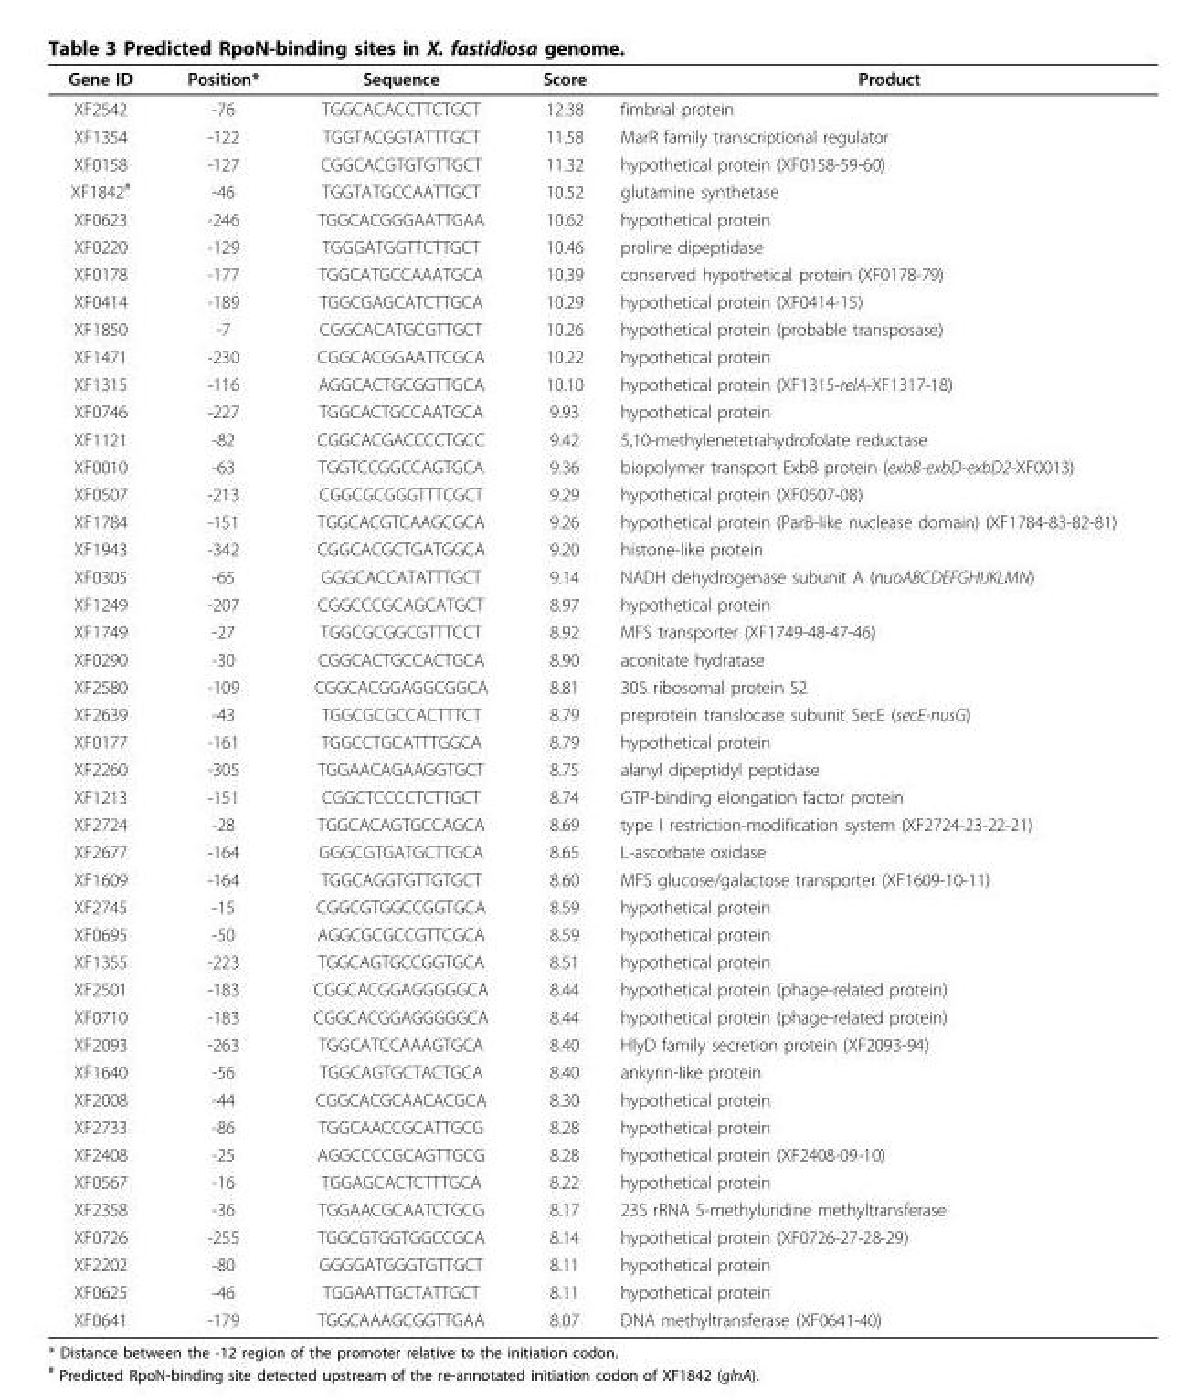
<table><thead><tr><td>Gene ID</td><td>Position*</td><td>Sequence</td><td>Score</td><td>Product</td></tr></thead><tbody><tr><td>XF2542</td><td>-76</td><td>TGGCACACCTTCTGCT</td><td>12.38</td><td>fimbrial protein</td></tr><tr><td>XF1354</td><td>-122</td><td>TGGTACGGTATTTGCT</td><td>11.58</td><td>MarR family transcriptional regulator</td></tr><tr><td>XF0158</td><td>-127</td><td>CGGCACGTGTGTTGCT</td><td>11.32</td><td>hypothetical protein (XF0158-59-60)</td></tr><tr><td>XF1842<sup>#</sup></td><td>-46</td><td>TGGTATGCCAATTGCT</td><td>10.52</td><td>glutamine synthetase</td></tr><tr><td>XF0623</td><td>-246</td><td>TGGCACGGGAATTGAA</td><td>10.62</td><td>hypothetical protein</td></tr><tr><td>XF0220</td><td>-129</td><td>TGGGATGGTTCTTGCT</td><td>10.46</td><td>proline dipeptidase</td></tr><tr><td>XF0178</td><td>-177</td><td>TGGCATGCCAAATGCA</td><td>10.39</td><td>conserved hypothetical protein (XF0178-79)</td></tr><tr><td>XF0414</td><td>-189</td><td>TGGCGAGCATCTTGCA</td><td>10.29</td><td>hypothetical protein (XF0414-15)</td></tr><tr><td>XF1850</td><td>-7</td><td>CGGCACATGCGTTGCT</td><td>10.26</td><td>hypothetical protein (probable transposase)</td></tr><tr><td>XF1471</td><td>-230</td><td>CGGCACGGAATTCGCA</td><td>10.22</td><td>hypothetical protein</td></tr><tr><td>XF1315</td><td>-116</td><td>AGGCACTGCGGTTGCA</td><td>10.10</td><td>hypothetical protein (XF1315-relA-XF1317-18)</td></tr><tr><td>XF0746</td><td>-227</td><td>TGGCACTGCCAATGCA</td><td>9.93</td><td>hypothetical protein</td></tr><tr><td>XF1121</td><td>-82</td><td>CGGCACGACCCCTGCC</td><td>9.42</td><td>5,10-methylenetetrahydrofolate reductase</td></tr><tr><td>XF0010</td><td>-63</td><td>TGGTCCGGCCAGTGCA</td><td>9.36</td><td>biopolymer transport ExbB protein (exbB-exbD-exbD2-XF0013)</td></tr><tr><td>XF0507</td><td>-213</td><td>CGGCGCGGGTTTCGCT</td><td>9.29</td><td>hypothetical protein (XF0507-08)</td></tr><tr><td>XF1784</td><td>-151</td><td>TGGCACGTCAAGCGCA</td><td>9.26</td><td>hypothetical protein (ParB-like nuclease domain) (XF1784-83-82-81)</td></tr><tr><td>XF1943</td><td>-342</td><td>CGGCACGCTGATGGCA</td><td>9.20</td><td>histone-like protein</td></tr><tr><td>XF0305</td><td>-65</td><td>GGGCACCATATTTGCT</td><td>9.14</td><td>NADH dehydrogenase subunit A (nuoABCDEFGHIJKLMN)</td></tr><tr><td>XF1249</td><td>-207</td><td>CGGCCCGCAGCATGCT</td><td>8.97</td><td>hypothetical protein</td></tr><tr><td>XF1749</td><td>-27</td><td>TGGCGCGGCGTTTCCT</td><td>8.92</td><td>MFS transporter (XF1749-48-47-46)</td></tr><tr><td>XF0290</td><td>-30</td><td>CGGCACTGCCACTGCA</td><td>8.90</td><td>aconitate hydratase</td></tr><tr><td>XF2580</td><td>-109</td><td>CGGCACGGAGGCGGCA</td><td>8.81</td><td>30S ribosomal protein S2</td></tr><tr><td>XF2639</td><td>-43</td><td>TGGCGCGCCACTTTCT</td><td>8.79</td><td>preprotein translocase subunit SecE (secE-nusG)</td></tr><tr><td>XF0177</td><td>-161</td><td>TGGCCTGCATTTGGCA</td><td>8.79</td><td>hypothetical protein</td></tr><tr><td>XF2260</td><td>-305</td><td>TGGAACAGAAGGTGCT</td><td>8.75</td><td>alanyl dipeptidyl peptidase</td></tr><tr><td>XF1213</td><td>-151</td><td>CGGCTCCCCTCTTGCT</td><td>8.74</td><td>GTP-binding elongation factor protein</td></tr><tr><td>XF2724</td><td>-28</td><td>TGGCACAGTGCCAGCA</td><td>8.69</td><td>type I restriction-modification system (XF2724-23-22-21)</td></tr><tr><td>XF2677</td><td>-164</td><td>GGGCGTGATGCTTGCA</td><td>8.65</td><td>L-ascorbate oxidase</td></tr><tr><td>XF1609</td><td>-164</td><td>TGGCAGGTGTTGTGCT</td><td>8.60</td><td>MFS glucose/galactose transporter (XF1609-10-11)</td></tr><tr><td>XF2745</td><td>-15</td><td>CGGCGTGGCCGGTGCA</td><td>8.59</td><td>hypothetical protein</td></tr><tr><td>XF0695</td><td>-50</td><td>AGGCGCGCCGTTCGCA</td><td>8.59</td><td>hypothetical protein</td></tr><tr><td>XF1355</td><td>-223</td><td>TGGCAGTGCCGGTGCA</td><td>8.51</td><td>hypothetical protein</td></tr><tr><td>XF2501</td><td>-183</td><td>CGGCACGGAGGGGGCA</td><td>8.44</td><td>hypothetical protein (phage-related protein)</td></tr><tr><td>XF0710</td><td>-183</td><td>CGGCACGGAGGGGGCA</td><td>8.44</td><td>hypothetical protein (phage-related protein)</td></tr><tr><td>XF2093</td><td>-263</td><td>TGGCATCCAAAGTGCA</td><td>8.40</td><td>HlyD family secretion protein (XF2093-94)</td></tr><tr><td>XF1640</td><td>-56</td><td>TGGCAGTGCTACTGCA</td><td>8.40</td><td>ankyrin-like protein</td></tr><tr><td>XF2008</td><td>-44</td><td>CGGCACGCAACACGCA</td><td>8.30</td><td>hypothetical protein</td></tr><tr><td>XF2733</td><td>-86</td><td>TGGCAACCGCATTGCG</td><td>8.28</td><td>hypothetical protein</td></tr><tr><td>XF2408</td><td>-25</td><td>AGGCCCCGCAGTTGCG</td><td>8.28</td><td>hypothetical protein (XF2408-09-10)</td></tr><tr><td>XF0567</td><td>-16</td><td>TGGAGCACTCTTTGCA</td><td>8.22</td><td>hypothetical protein</td></tr><tr><td>XF2358</td><td>-36</td><td>TGGAACGCAATCTGCG</td><td>8.17</td><td>23S rRNA 5-methyluridine methyltransferase</td></tr><tr><td>XF0726</td><td>-255</td><td>TGGCGTGGTGGCCGCA</td><td>8.14</td><td>hypothetical protein (XF0726-27-28-29)</td></tr><tr><td>XF2202</td><td>-80</td><td>GGGGATGGGTGTTGCT</td><td>8.11</td><td>hypothetical protein</td></tr><tr><td>XF0625</td><td>-46</td><td>TGGAATTGCTATTGCT</td><td>8.11</td><td>hypothetical protein</td></tr><tr><td>XF0641</td><td>-179</td><td>TGGCAAAGCGGTTGAA</td><td>8.07</td><td>DNA methyltransferase (XF0641-40)</td></tr></tbody></table>